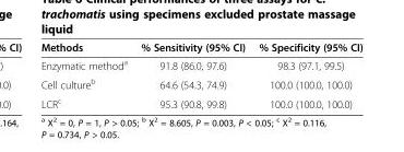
<table><thead><tr><td>Methods</td><td>% Sensitivity (95% CI)</td><td>% Specificity (95% CI)</td></tr></thead><tbody><tr><td>Enzymatic method<sup>a</sup></td><td>91.8 (86.0, 97.6)</td><td>98.3 (97.1, 99.5)</td></tr><tr><td>Cell culture<sup>b</sup></td><td>64.6 (54.3, 74.9)</td><td>100.0 (100.0, 100.0)</td></tr><tr><td>LCR<sup>c</sup></td><td>95.3 (90.8, 99.8)</td><td>100.0 (100.0, 100.0)</td></tr></tbody></table>